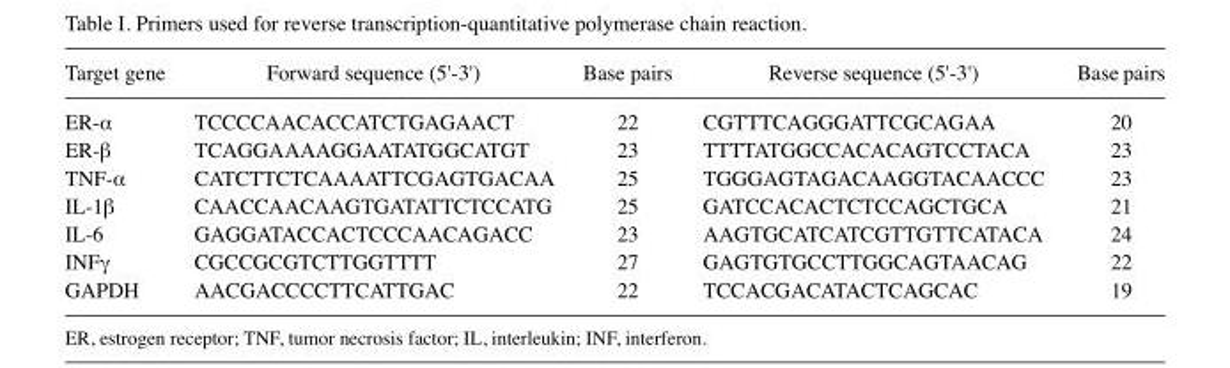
<table><thead><tr><td>Target gene</td><td>Forward sequence (5&#x27;-3&#x27;)</td><td>Base pairs</td><td>Reverse sequence (5&#x27;-3&#x27;)</td><td>Base pairs</td></tr></thead><tbody><tr><td>ER-α</td><td>TCCCCAACACCATCTGAGAACT</td><td>22</td><td>CGTTTCAGGGATTCGCAGAA</td><td>20</td></tr><tr><td>ER-β</td><td>TCAGGAAAAGGAATATGGCATGT</td><td>23</td><td>TTTTATGGCCACACAGTCCTACA</td><td>23</td></tr><tr><td>TNF-α</td><td>CATCTTCTCAAAATTCGAGTGACAA</td><td>25</td><td>TGGGAGTAGACAAGGTACAACCC</td><td>23</td></tr><tr><td>IL-1β</td><td>CAACCAACAAGTGATATTCTCCATG</td><td>25</td><td>GATCCACACTCTCCAGCTGCA</td><td>21</td></tr><tr><td>IL-6</td><td>GAGGATACCACTCCCAACAGACC</td><td>23</td><td>AAGTGCATCATCGTTGTTCATACA</td><td>24</td></tr><tr><td>INFγ</td><td>CGCCGCGTCTTGGTTTT</td><td>27</td><td>GAGTGTGCCTTGGCAGTAACAG</td><td>22</td></tr><tr><td>GAPDH</td><td>AACGACCCCTTCATTGAC</td><td>22</td><td>TCCACGACATACTCAGCAC</td><td>19</td></tr></tbody></table>